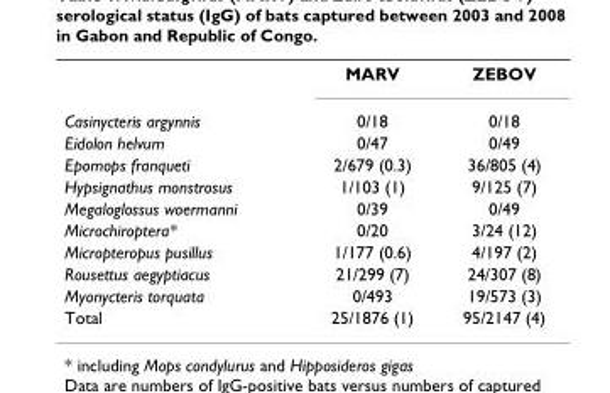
<table><thead><tr><td></td><td>MARV</td><td>ZEBOV</td></tr></thead><tbody><tr><td>Casinycteris argynnis</td><td>0/18</td><td>0/18</td></tr><tr><td>Eidolon helvum</td><td>0/47</td><td>0/49</td></tr><tr><td>Epomops franqueti</td><td>2/679 (0.3)</td><td>36/805 (4)</td></tr><tr><td>Hypsignathus monstrosus</td><td>1/103 (1)</td><td>9/125 (7)</td></tr><tr><td>Megaloglossus woermanni</td><td>0/39</td><td>0/49</td></tr><tr><td>Microchiroptera*</td><td>0/20</td><td>3/24 (12)</td></tr><tr><td>Micropteropus pusillus</td><td>1/177 (0.6)</td><td>4/197 (2)</td></tr><tr><td>Rousettus aegyptiacus</td><td>21/299 (7)</td><td>24/307 (8)</td></tr><tr><td>Myonycteris torquata</td><td>0/493</td><td>19/573 (3)</td></tr><tr><td>Total</td><td>25/1876 (1)</td><td>95/2147 (4)</td></tr></tbody></table>